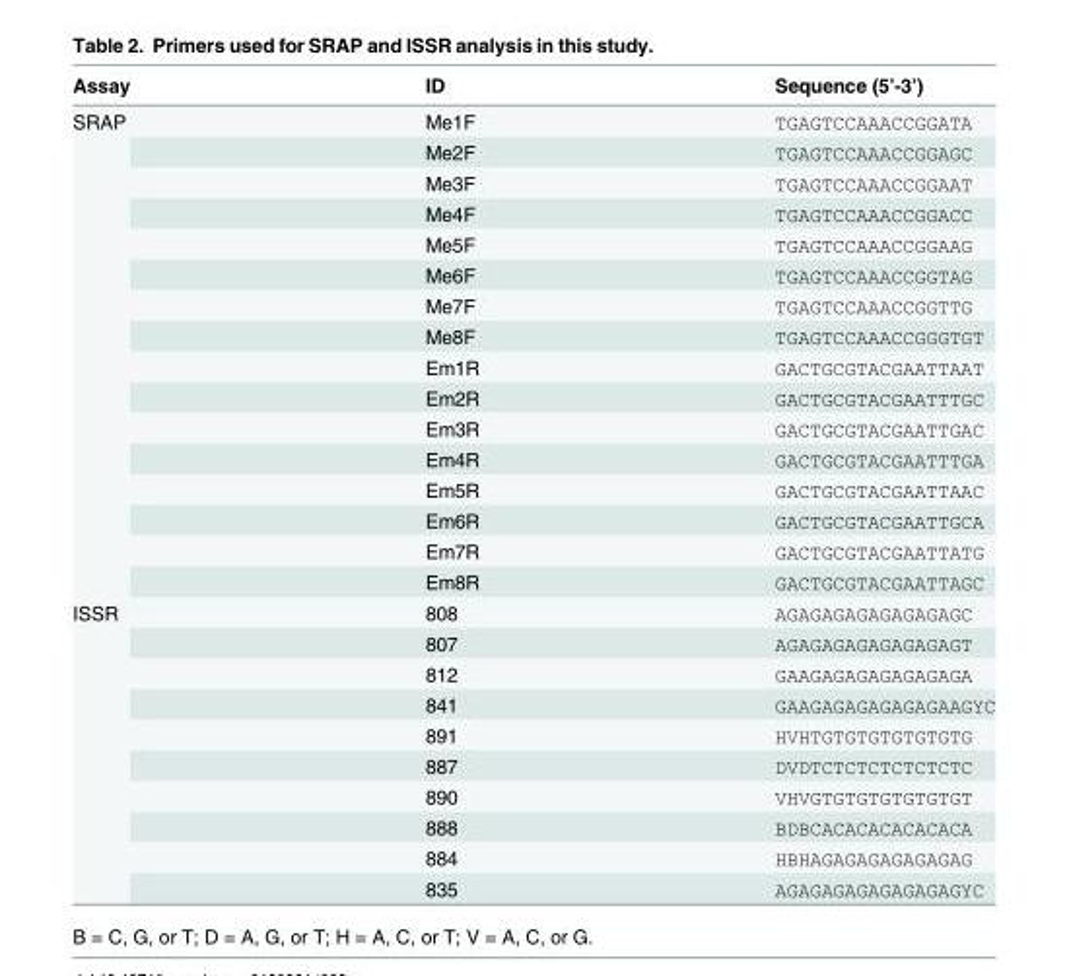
<table><thead><tr><td>Assay</td><td>ID</td><td>Sequence (5’-3’)</td></tr></thead><tbody><tr><td rowspan="16">SRAP</td><td>Me1F</td><td>TGAGTCCAAACCGGATA</td></tr><tr><td>Me2F</td><td>TGAGTCCAAACCGGAGC</td></tr><tr><td>Me3F</td><td>TGAGTCCAAACCGGAAT</td></tr><tr><td>Me4F</td><td>TGAGTCCAAACCGGACC</td></tr><tr><td>Me5F</td><td>TGAGTCCAAACCGGAAG</td></tr><tr><td>Me6F</td><td>TGAGTCCAAACCGGTAG</td></tr><tr><td>Me7F</td><td>TGAGTCCAAACCGGTTG</td></tr><tr><td>Me8F</td><td>TGAGTCCAAACCGGGTGT</td></tr><tr><td>Em1R</td><td>GACTGCGTACGAATTAAT</td></tr><tr><td>Em2R</td><td>GACTGCGTACGAATTTGC</td></tr><tr><td>Em3R</td><td>GACTGCGTACGAATTGAC</td></tr><tr><td>Em4R</td><td>GACTGCGTACGAATTTGA</td></tr><tr><td>Em5R</td><td>GACTGCGTACGAATTAAC</td></tr><tr><td>Em6R</td><td>GACTGCGTACGAATTGCA</td></tr><tr><td>Em7R</td><td>GACTGCGTACGAATTATG</td></tr><tr><td>Em8R</td><td>GACTGCGTACGAATTAGC</td></tr><tr><td rowspan="10">ISSR</td><td>808</td><td>AGAGAGAGAGAGAGAGC</td></tr><tr><td>807</td><td>AGAGAGAGAGAGAGAGT</td></tr><tr><td>812</td><td>GAAGAGAGAGAGAGAGA</td></tr><tr><td>841</td><td>GAAGAGAGAGAGAGAAGYC</td></tr><tr><td>891</td><td>HVHTGTGTGTGTGTGTG</td></tr><tr><td>887</td><td>DVDTCTCTCTCTCTCTC</td></tr><tr><td>890</td><td>VHVGTGTGTGTGTGTGT</td></tr><tr><td>888</td><td>BDBCACACACACACACA</td></tr><tr><td>884</td><td>HBHAGAGAGAGAGAGAG</td></tr><tr><td>835</td><td>AGAGAGAGAGAGAGAGYC</td></tr></tbody></table>